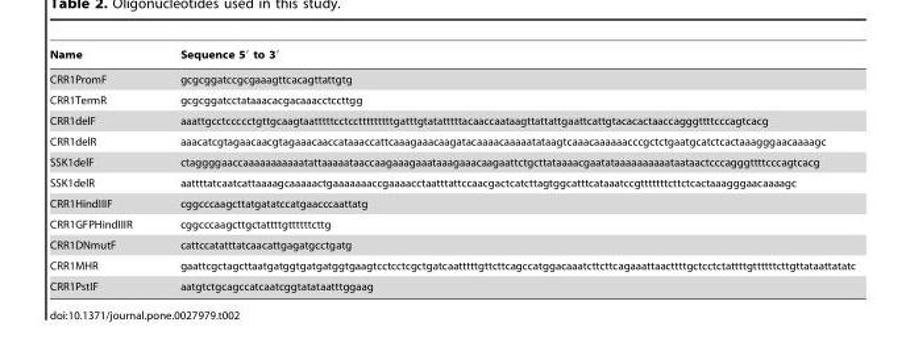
<table><thead><tr><td>Name</td><td>Sequence 5′ to 3′</td></tr></thead><tbody><tr><td>CRR1PromF</td><td>gcgcggatccgcgaaagttcacagttattgtg</td></tr><tr><td>CRR1TermR</td><td>gcgcggatcctataaacacgacaaacctccttgg</td></tr><tr><td>CRR1delF</td><td>aaattgcctccccctgttgcaagtaatttttcctcctttttttttgatttgtatatttttacaaccaataagttattattgaattcattgtacacactaaccagggttttcccagtcacg</td></tr><tr><td>CRR1delR</td><td>aaacatcgtagaacaacgtagaaacaaccataaaccattcaaagaaacaagatacaaaacaaaaatataagtcaaacaaaaaacccgctctgaatgcatctcactaaagggaacaaaagc</td></tr><tr><td>SSK1delF</td><td>ctaggggaaccaaaaaaaaaaatattaaaaataaccaagaaagaaataaagaaacaagaattctgcttataaaacgaatataaaaaaaaaataataactcccagggttttcccagtcacg</td></tr><tr><td>SSK1delR</td><td>aattttatcaatcattaaaagcaaaaactgaaaaaaaccgaaaacctaatttattccaacgactcatcttagtggcatttcataaatccgtttttttcttctcactaaagggaacaaaagc</td></tr><tr><td>CRR1HindIIIF</td><td>cggcccaagcttatgatatccatgaacccaattatg</td></tr><tr><td>CRR1GFPHindIIIR</td><td>cggcccaagcttgctattttgttttttcttg</td></tr><tr><td>CRR1DNmutF</td><td>cattccatatttatcaacattgagatgcctgatg</td></tr><tr><td>CRR1MHR</td><td>gaattcgctagcttaatgatggtgatgatggtgaagtcctcctcgctgatcaatttttgttcttcagccatggacaaatcttcttcagaaattaacttttgctcctctattttgttttttcttgttataattatatc</td></tr><tr><td>CRR1PstIF</td><td>aatgtctgcagccatcaatcggtatataatttggaag</td></tr></tbody></table>